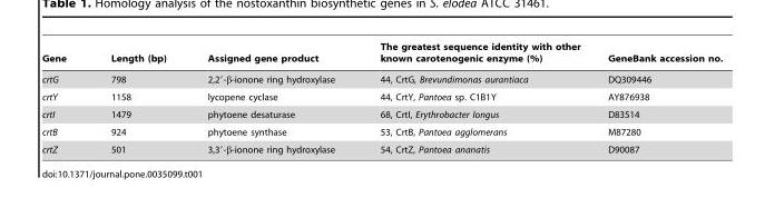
<table><thead><tr><td>Gene</td><td>Length (bp)</td><td>Assigned gene product</td><td>The greatest sequence identity with other known carotenogenic enzyme (%)</td><td>GeneBank accession no.</td></tr></thead><tbody><tr><td>crtG</td><td>798</td><td>2,2′-β-ionone ring hydroxylase</td><td>44, CrtG, Brevundimonas aurantiaca</td><td>DQ309446</td></tr><tr><td>crtY</td><td>1158</td><td>lycopene cyclase</td><td>44, CrtY, Pantoea sp. C1B1Y</td><td>AY876938</td></tr><tr><td>crtI</td><td>1479</td><td>phytoene desaturase</td><td>68, CrtI, Erythrobacter longus</td><td>D83514</td></tr><tr><td>crtB</td><td>924</td><td>phytoene synthase</td><td>53, CrtB, Pantoea agglomerans</td><td>M87280</td></tr><tr><td>crtZ</td><td>501</td><td>3,3′-β-ionone ring hydroxylase</td><td>54, CrtZ, Pantoea ananatis</td><td>D90087</td></tr></tbody></table>